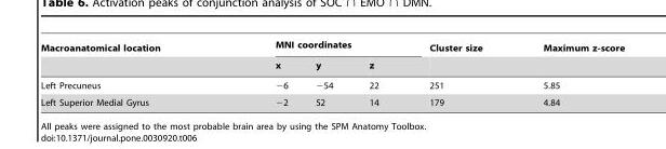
<table><thead><tr><td rowspan="2">Macroanatomical location</td><td colspan="3">MNI coordinates</td><td rowspan="2">Cluster size</td><td rowspan="2">Maximum z-score</td></tr><tr><td>x</td><td>y</td><td>z</td></tr></thead><tbody><tr><td>Left Precuneus</td><td>−6</td><td>−54</td><td>22</td><td>251</td><td>5.85</td></tr><tr><td>Left Superior Medial Gyrus</td><td>−2</td><td>52</td><td>14</td><td>179</td><td>4.84</td></tr></tbody></table>